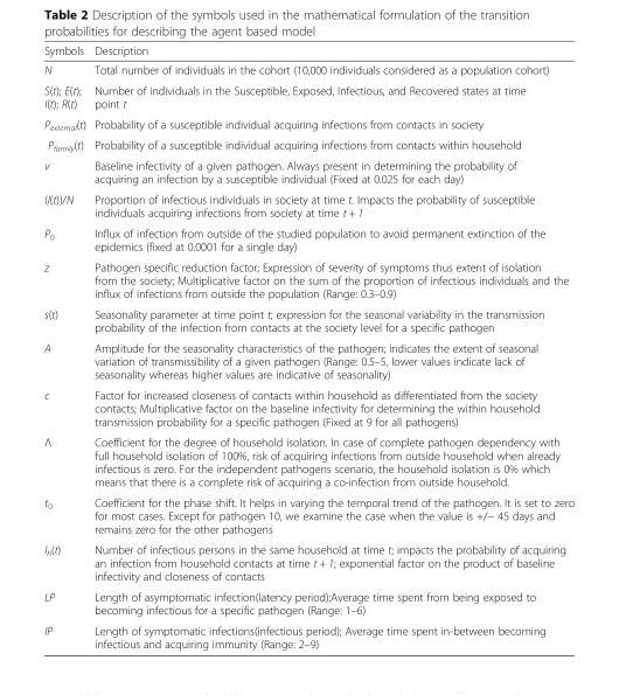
<table><thead><tr><td>Symbols</td><td>Description</td></tr></thead><tbody><tr><td>N</td><td>Total number of individuals in the cohort (10,000 individuals considered as a population cohort)</td></tr><tr><td>S(t); E(t); I(t); R(t)</td><td>Number of individuals in the Susceptible, Exposed, Infectious, and Recovered states at time point t</td></tr><tr><td>P<sub>external</sub>(t)</td><td>Probability of a susceptible individual acquiring infections from contacts in society</td></tr><tr><td>P<sub>family</sub>(t)</td><td>Probability of a susceptible individual acquiring infections from contacts within household</td></tr><tr><td>v</td><td>Baseline infectivity of a given pathogen. Always present in determining the probability of acquiring an infection by a susceptible individual (Fixed at 0.025 for each day)</td></tr><tr><td>(I(t))/N</td><td>Proportion of infectious individuals in society at time t. Impacts the probability of susceptible individuals acquiring infections from society at time t + 1</td></tr><tr><td>P<sub>0</sub></td><td>Influx of infection from outside of the studied population to avoid permanent extinction of the epidemics (fixed at 0.0001 for a single day)</td></tr><tr><td>z</td><td>Pathogen specific reduction factor; Expression of severity of symptoms thus extent of isolation from the society; Multiplicative factor on the sum of the proportion of infectious individuals and the influx of infections from outside the population (Range: 0.3–0.9)</td></tr><tr><td>s(t)</td><td>Seasonality parameter at time point t; expression for the seasonal variability in the transmission probability of the infection from contacts at the society level for a specific pathogen</td></tr><tr><td>A</td><td>Amplitude for the seasonality characteristics of the pathogen; indicates the extent of seasonal variation of transmissibility of a given pathogen (Range: 0.5–5, lower values indicate lack of seasonality whereas higher values are indicative of seasonality)</td></tr><tr><td>c</td><td>Factor for increased closeness of contacts within household as differentiated from the society contacts; Multiplicative factor on the baseline infectivity for determining the within household transmission probability for a specific pathogen (Fixed at 9 for all pathogens)</td></tr><tr><td>Λ</td><td>Coefficient for the degree of household isolation. In case of complete pathogen dependency with full household isolation of 100%, risk of acquiring infections from outside household when already infectious is zero. For the independent pathogens scenario, the household isolation is 0% which means that there is a complete risk of acquiring a co-infection from outside household.</td></tr><tr><td>t<sub>0</sub></td><td>Coefficient for the phase shift. It helps in varying the temporal trend of the pathogen. It is set to zero for most cases. Except for pathogen 10, we examine the case when the value is +/− 45 days and remains zero for the other pathogens</td></tr><tr><td>I<sub>h</sub>(t)</td><td>Number of infectious persons in the same household at time t; impacts the probability of acquiring an infection from household contacts at time t + 1; exponential factor on the product of baseline infectivity and closeness of contacts</td></tr><tr><td>LP</td><td>Length of asymptomatic infection(latency period);Average time spent from being exposed to becoming infectious for a specific pathogen (Range: 1–6)</td></tr><tr><td>IP</td><td>Length of symptomatic infections(infectious period); Average time spent in-between becoming infectious and acquiring immunity (Range: 2–9)</td></tr></tbody></table>